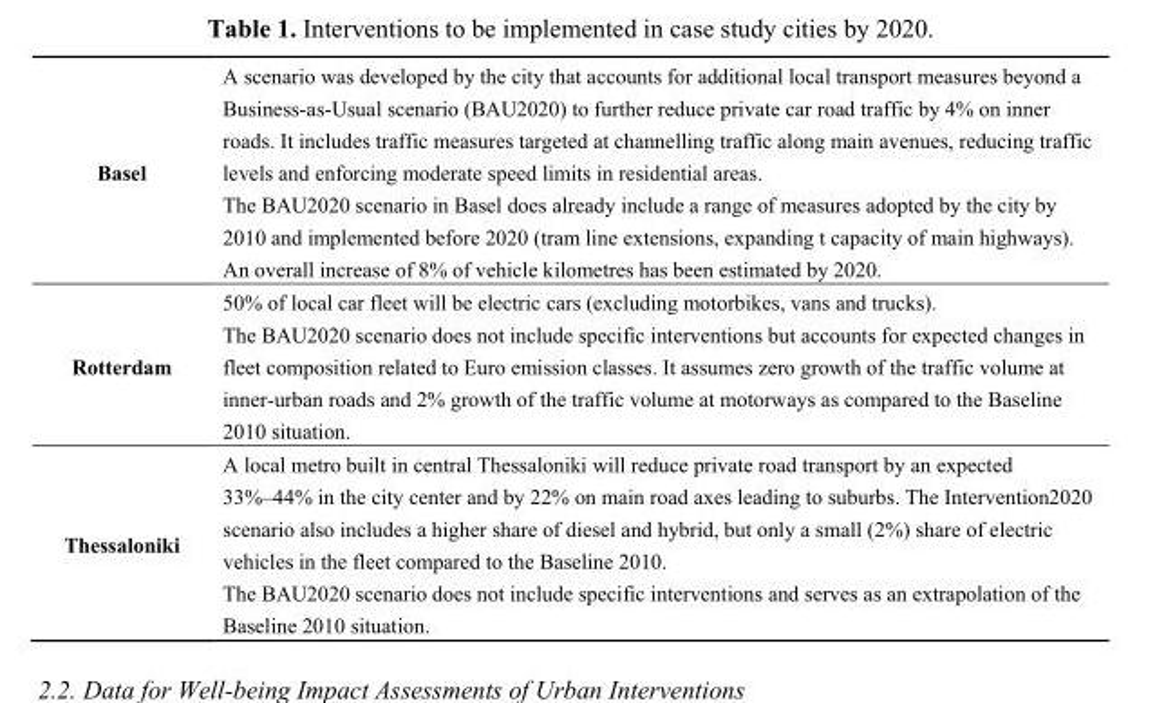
<table><tbody><tr><td>Basel</td><td>A scenario was developed by the city that accounts for additional local transport measures beyond a Business-as-Usual scenario (BAU2020) to further reduce private car road traffic by 4% on inner roads. It includes traffic measures targeted at channelling traffic along main avenues, reducing traffic levels and enforcing moderate speed limits in residential areas. The BAU2020 scenario in Basel does already include a range of measures adopted by the city by 2010 and implemented before 2020 (tram line extensions, expanding t capacity of main highways). An overall increase of 8% of vehicle kilometres has been estimated by 2020.</td></tr><tr><td>Rotterdam</td><td>50% of local car fleet will be electric cars (excluding motorbikes, vans and trucks). The BAU2020 scenario does not include specific interventions but accounts for expected changes in fleet composition related to Euro emission classes. It assumes zero growth of the traffic volume at inner-urban roads and 2% growth of the traffic volume at motorways as compared to the Baseline 2010 situation.</td></tr><tr><td>Thessaloniki</td><td>A local metro built in central Thessaloniki will reduce private road transport by an expected 33%‒44% in the city center and by 22% on main road axes leading to suburbs. The Intervention2020 scenario also includes a higher share of diesel and hybrid, but only a small (2%) share of electric vehicles in the fleet compared to the Baseline 2010. The BAU2020 scenario does not include specific interventions and serves as an extrapolation of the Baseline 2010 situation.</td></tr></tbody></table>